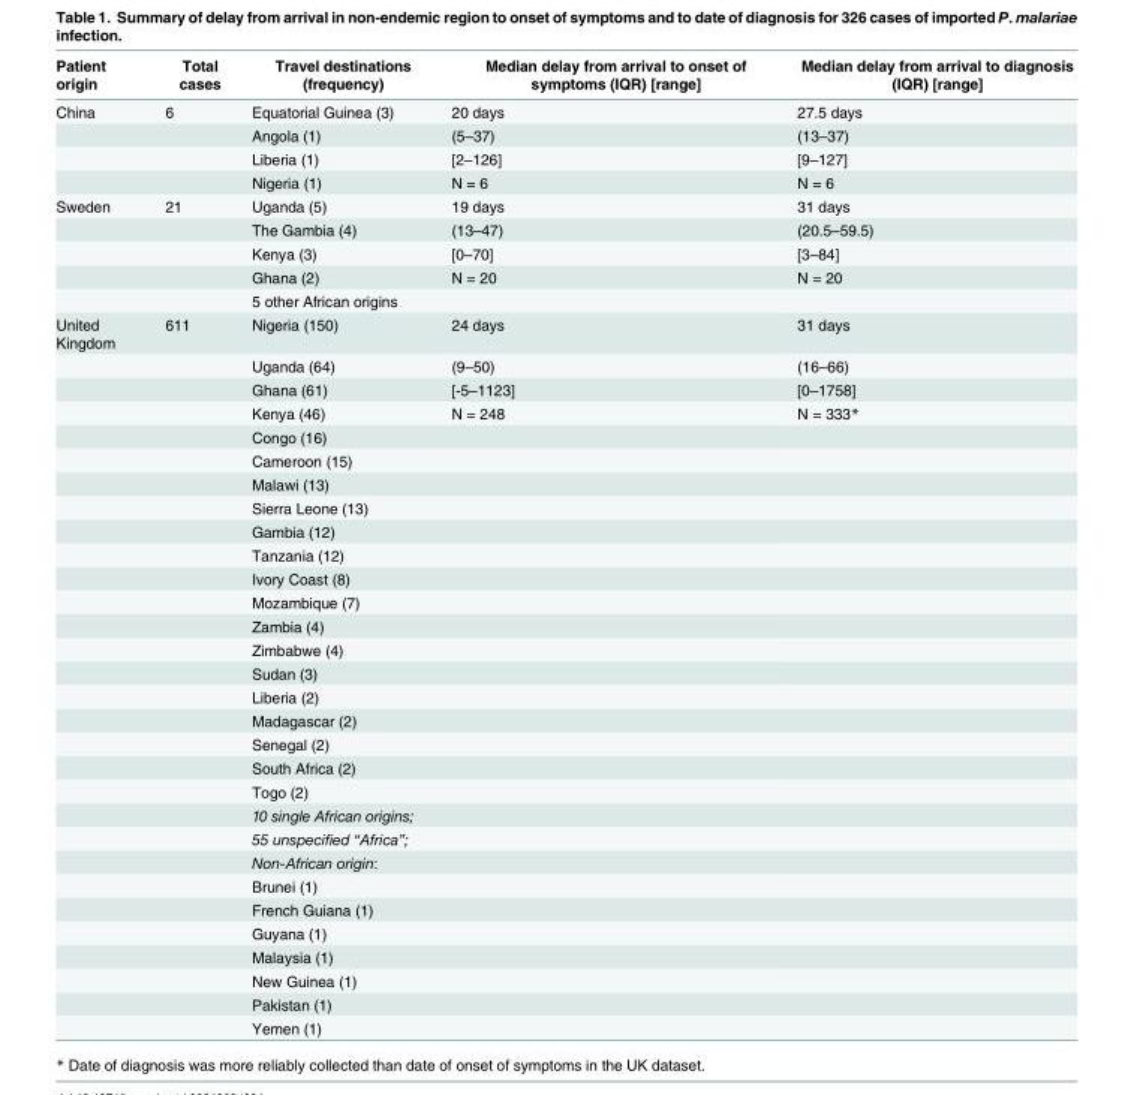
<table><thead><tr><td>Patient origin</td><td>Total cases</td><td>Travel destinations (frequency)</td><td>Median delay from arrival to onset of symptoms (IQR) [range]</td><td>Median delay from arrival to diagnosis (IQR) [range]</td></tr></thead><tbody><tr><td rowspan="4">China</td><td>6</td><td>Equatorial Guinea (3)</td><td>20 days</td><td>27.5 days</td></tr><tr><td></td><td>Angola (1)</td><td>(5–37)</td><td>(13–37)</td></tr><tr><td></td><td>Liberia (1)</td><td>[2–126]</td><td>[9–127]</td></tr><tr><td></td><td>Nigeria (1)</td><td>N = 6</td><td>N = 6</td></tr><tr><td rowspan="5">Sweden</td><td>21</td><td>Uganda (5)</td><td>19 days</td><td>31 days</td></tr><tr><td></td><td>The Gambia (4)</td><td>(13–47)</td><td>(20.5–59.5)</td></tr><tr><td></td><td>Kenya (3)</td><td>[0–70]</td><td>[3–84]</td></tr><tr><td></td><td>Ghana (2)</td><td>N = 20</td><td>N = 20</td></tr><tr><td></td><td>5 other African origins</td><td></td><td></td></tr><tr><td rowspan="30">United Kingdom</td><td>611</td><td>Nigeria (150)</td><td>24 days</td><td>31 days</td></tr><tr><td></td><td>Uganda (64)</td><td>(9–50)</td><td>(16–66)</td></tr><tr><td></td><td>Ghana (61)</td><td>[-5–1123]</td><td>[0–1758]</td></tr><tr><td></td><td>Kenya (46)</td><td>N = 248</td><td>N = 333*</td></tr><tr><td></td><td>Congo (16)</td><td></td><td></td></tr><tr><td></td><td>Cameroon (15)</td><td></td><td></td></tr><tr><td></td><td>Malawi (13)</td><td></td><td></td></tr><tr><td></td><td>Sierra Leone (13)</td><td></td><td></td></tr><tr><td></td><td>Gambia (12)</td><td></td><td></td></tr><tr><td></td><td>Tanzania (12)</td><td></td><td></td></tr><tr><td></td><td>Ivory Coast (8)</td><td></td><td></td></tr><tr><td></td><td>Mozambique (7)</td><td></td><td></td></tr><tr><td></td><td>Zambia (4)</td><td></td><td></td></tr><tr><td></td><td>Zimbabwe (4)</td><td></td><td></td></tr><tr><td></td><td>Sudan (3)</td><td></td><td></td></tr><tr><td></td><td>Liberia (2)</td><td></td><td></td></tr><tr><td></td><td>Madagascar (2)</td><td></td><td></td></tr><tr><td></td><td>Senegal (2)</td><td></td><td></td></tr><tr><td></td><td>South Africa (2)</td><td></td><td></td></tr><tr><td></td><td>Togo (2)</td><td></td><td></td></tr><tr><td></td><td>10 single African origins;</td><td></td><td></td></tr><tr><td></td><td>55 unspecified “Africa”;</td><td></td><td></td></tr><tr><td></td><td>Non-African origin:</td><td></td><td></td></tr><tr><td></td><td>Brunei (1)</td><td></td><td></td></tr><tr><td></td><td>French Guiana (1)</td><td></td><td></td></tr><tr><td></td><td>Guyana (1)</td><td></td><td></td></tr><tr><td></td><td>Malaysia (1)</td><td></td><td></td></tr><tr><td></td><td>New Guinea (1)</td><td></td><td></td></tr><tr><td></td><td>Pakistan (1)</td><td></td><td></td></tr><tr><td></td><td>Yemen (1)</td><td></td><td></td></tr></tbody></table>